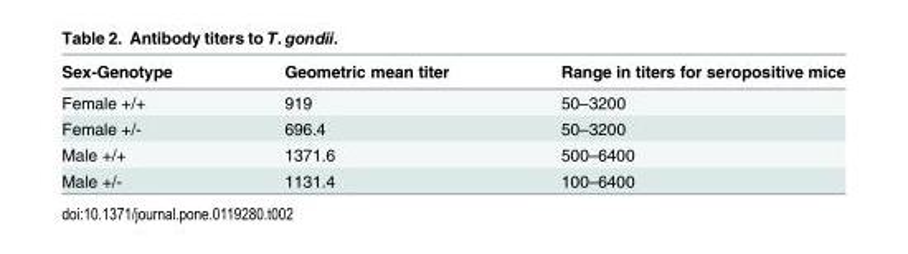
<table><thead><tr><td>Sex-Genotype</td><td>Geometric mean titer</td><td>Range in titers for seropositive mice</td></tr></thead><tbody><tr><td>Female +/+</td><td>919</td><td>50–3200</td></tr><tr><td>Female +/-</td><td>696.4</td><td>50–3200</td></tr><tr><td>Male +/+</td><td>1371.6</td><td>500–6400</td></tr><tr><td>Male +/-</td><td>1131.4</td><td>100–6400</td></tr></tbody></table>